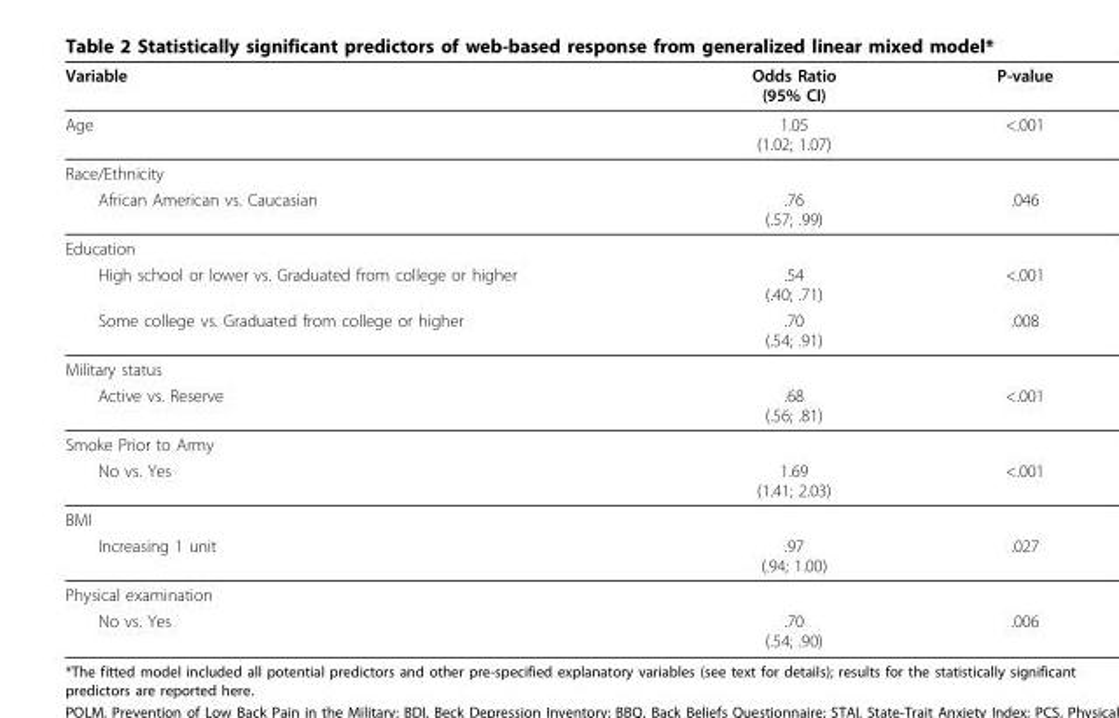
<table><thead><tr><td>Variable</td><td>Odds Ratio (95% CI)</td><td>P-value</td></tr></thead><tbody><tr><td>Age</td><td>1.05 (1.02; 1.07)</td><td>&lt;.001</td></tr><tr><td colspan="3">Race/Ethnicity</td></tr><tr><td>African American vs. Caucasian</td><td>.76 (.57; .99)</td><td>.046</td></tr><tr><td colspan="3">Education</td></tr><tr><td>High school or lower vs. Graduated from college or higher</td><td>.54 (.40; .71)</td><td>&lt;.001</td></tr><tr><td>Some college vs. Graduated from college or higher</td><td>.70 (.54; .91)</td><td>.008</td></tr><tr><td colspan="3">Military status</td></tr><tr><td>Active vs. Reserve</td><td>.68 (.56; .81)</td><td>&lt;.001</td></tr><tr><td colspan="3">Smoke Prior to Army</td></tr><tr><td>No vs. Yes</td><td>1.69 (1.41; 2.03)</td><td>&lt;.001</td></tr><tr><td colspan="3">BMI</td></tr><tr><td>Increasing 1 unit</td><td>.97 (.94; 1.00)</td><td>.027</td></tr><tr><td colspan="3">Physical examination</td></tr><tr><td>No vs. Yes</td><td>.70 (.54; .90)</td><td>.006</td></tr></tbody></table>